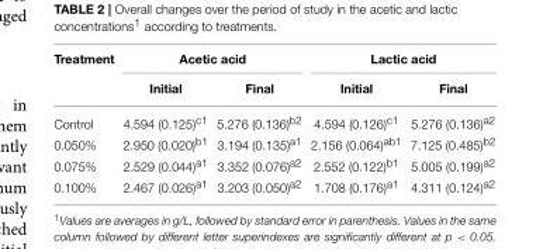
<table><thead><tr><td rowspan="2">Treatment</td><td colspan="2">Acetic acid</td><td colspan="2">Lactic acid</td></tr><tr><td>Initial</td><td>Final</td><td>Initial</td><td>Final</td></tr></thead><tbody><tr><td>Control</td><td>4.594 (0.125)<sup>c1</sup></td><td>5.276 (0.136)<sup>b2</sup></td><td>4.594 (0.126)<sup>c1</sup></td><td>5.276 (0.136)<sup>a2</sup></td></tr><tr><td>0.050%</td><td>2.950 (0.020)<sup>b1</sup></td><td>3.194 (0.135)<sup>a1</sup></td><td>2.156 (0.064)<sup>ab1</sup></td><td>7.125 (0.485)<sup>b2</sup></td></tr><tr><td>0.075%</td><td>2.529 (0.044)<sup>a1</sup></td><td>3.352 (0.076)<sup>a2</sup></td><td>2.552 (0.122)<sup>b1</sup></td><td>5.005 (0.199)<sup>a2</sup></td></tr><tr><td>0.100%</td><td>2.467 (0.026)<sup>a1</sup></td><td>3.203 (0.050)<sup>a2</sup></td><td>1.708 (0.176)<sup>a1</sup></td><td>4.311 (0.124)<sup>a2</sup></td></tr></tbody></table>